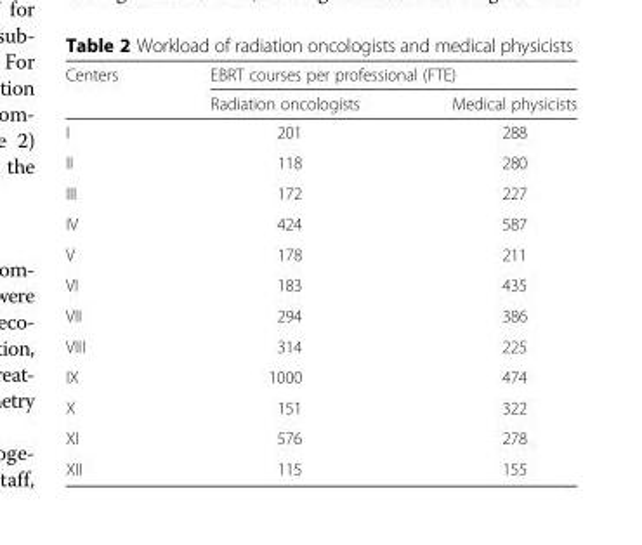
<table><thead><tr><td rowspan="2">Centers</td><td colspan="2">EBRT courses per professional (FTE)</td></tr><tr><td>Radiation oncologists</td><td>Medical physicists</td></tr></thead><tbody><tr><td>I</td><td>201</td><td>288</td></tr><tr><td>II</td><td>118</td><td>280</td></tr><tr><td>III</td><td>172</td><td>227</td></tr><tr><td>IV</td><td>424</td><td>587</td></tr><tr><td>V</td><td>178</td><td>211</td></tr><tr><td>VI</td><td>183</td><td>435</td></tr><tr><td>VII</td><td>294</td><td>386</td></tr><tr><td>VIII</td><td>314</td><td>225</td></tr><tr><td>IX</td><td>1000</td><td>474</td></tr><tr><td>X</td><td>151</td><td>322</td></tr><tr><td>XI</td><td>576</td><td>278</td></tr><tr><td>XII</td><td>115</td><td>155</td></tr></tbody></table>